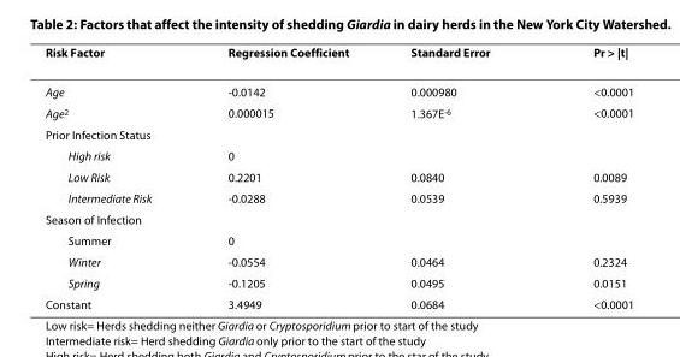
<table><thead><tr><td>Risk Factor</td><td>Regression Coefficient</td><td>Standard Error</td><td>Pr &gt; |t|</td></tr></thead><tbody><tr><td>Age</td><td>-0.0142</td><td>0.000980</td><td>&lt;0.0001</td></tr><tr><td>Age<sup>2</sup></td><td>0.000015</td><td>1.367E<sup>-6</sup></td><td>&lt;0.0001</td></tr><tr><td colspan="4">Prior Infection Status</td></tr><tr><td>High risk</td><td>0</td><td></td><td></td></tr><tr><td>Low Risk</td><td>0.2201</td><td>0.0840</td><td>0.0089</td></tr><tr><td>Intermediate Risk</td><td>-0.0288</td><td>0.0539</td><td>0.5939</td></tr><tr><td colspan="4">Season of Infection</td></tr><tr><td>Summer</td><td>0</td><td></td><td></td></tr><tr><td>Winter</td><td>-0.0554</td><td>0.0464</td><td>0.2324</td></tr><tr><td>Spring</td><td>-0.1205</td><td>0.0495</td><td>0.0151</td></tr><tr><td>Constant</td><td>3.4949</td><td>0.0684</td><td>&lt;0.0001</td></tr></tbody></table>